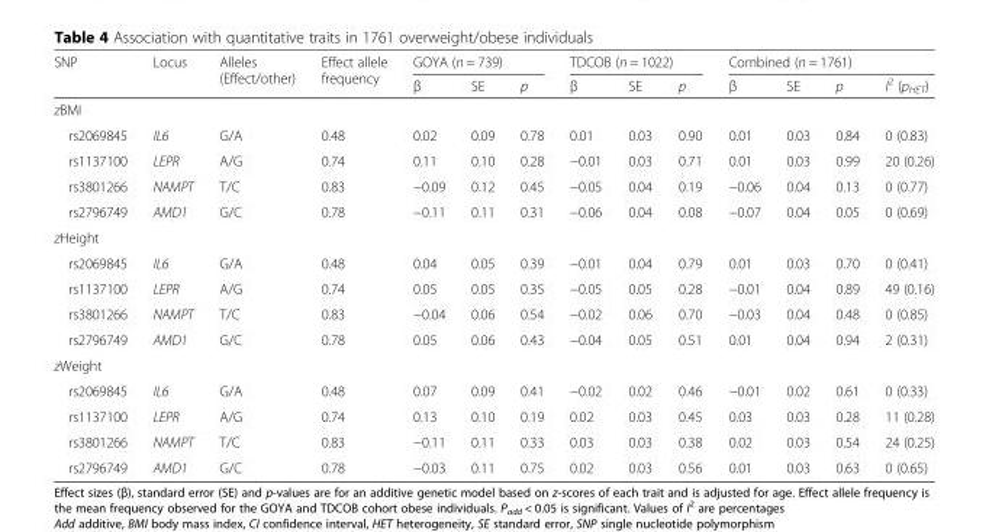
<table><thead><tr><td rowspan="2">SNP</td><td rowspan="2">Locus</td><td rowspan="2">Alleles (Effect/other)</td><td rowspan="2">Effect allele frequency</td><td colspan="3">GOYA (n = 739)</td><td colspan="3">TDCOB (n = 1022)</td><td colspan="4">Combined (n = 1761)</td></tr><tr><td>β</td><td>SE</td><td>p</td><td>β</td><td>SE</td><td>p</td><td>β</td><td>SE</td><td>p</td><td>I<sup>2</sup> (p<sub>HET</sub>)</td></tr></thead><tbody><tr><td colspan="14">zBMI</td></tr><tr><td>rs2069845</td><td>IL6</td><td>G/A</td><td>0.48</td><td>0.02</td><td>0.09</td><td>0.78</td><td>0.01</td><td>0.03</td><td>0.90</td><td>0.01</td><td>0.03</td><td>0.84</td><td>0 (0.83)</td></tr><tr><td>rs1137100</td><td>LEPR</td><td>A/G</td><td>0.74</td><td>0.11</td><td>0.10</td><td>0.28</td><td>−0.01</td><td>0.03</td><td>0.71</td><td>0.01</td><td>0.03</td><td>0.99</td><td>20 (0.26)</td></tr><tr><td>rs3801266</td><td>NAMPT</td><td>T/C</td><td>0.83</td><td>−0.09</td><td>0.12</td><td>0.45</td><td>−0.05</td><td>0.04</td><td>0.19</td><td>−0.06</td><td>0.04</td><td>0.13</td><td>0 (0.77)</td></tr><tr><td>rs2796749</td><td>AMD1</td><td>G/C</td><td>0.78</td><td>−0.11</td><td>0.11</td><td>0.31</td><td>−0.06</td><td>0.04</td><td>0.08</td><td>−0.07</td><td>0.04</td><td>0.05</td><td>0 (0.69)</td></tr><tr><td colspan="14">zHeight</td></tr><tr><td>rs2069845</td><td>IL6</td><td>G/A</td><td>0.48</td><td>0.04</td><td>0.05</td><td>0.39</td><td>−0.01</td><td>0.04</td><td>0.79</td><td>0.01</td><td>0.03</td><td>0.70</td><td>0 (0.41)</td></tr><tr><td>rs1137100</td><td>LEPR</td><td>A/G</td><td>0.74</td><td>0.05</td><td>0.05</td><td>0.35</td><td>−0.05</td><td>0.05</td><td>0.28</td><td>−0.01</td><td>0.04</td><td>0.89</td><td>49 (0.16)</td></tr><tr><td>rs3801266</td><td>NAMPT</td><td>T/C</td><td>0.83</td><td>−0.04</td><td>0.06</td><td>0.54</td><td>−0.02</td><td>0.06</td><td>0.70</td><td>−0.03</td><td>0.04</td><td>0.48</td><td>0 (0.85)</td></tr><tr><td>rs2796749</td><td>AMD1</td><td>G/C</td><td>0.78</td><td>0.05</td><td>0.06</td><td>0.43</td><td>−0.04</td><td>0.05</td><td>0.51</td><td>0.01</td><td>0.04</td><td>0.94</td><td>2 (0.31)</td></tr><tr><td colspan="14">zWeight</td></tr><tr><td>rs2069845</td><td>IL6</td><td>G/A</td><td>0.48</td><td>0.07</td><td>0.09</td><td>0.41</td><td>−0.02</td><td>0.02</td><td>0.46</td><td>−0.01</td><td>0.02</td><td>0.61</td><td>0 (0.33)</td></tr><tr><td>rs1137100</td><td>LEPR</td><td>A/G</td><td>0.74</td><td>0.13</td><td>0.10</td><td>0.19</td><td>0.02</td><td>0.03</td><td>0.45</td><td>0.03</td><td>0.03</td><td>0.28</td><td>11 (0.28)</td></tr><tr><td>rs3801266</td><td>NAMPT</td><td>T/C</td><td>0.83</td><td>−0.11</td><td>0.11</td><td>0.33</td><td>0.03</td><td>0.03</td><td>0.38</td><td>0.02</td><td>0.03</td><td>0.54</td><td>24 (0.25)</td></tr><tr><td>rs2796749</td><td>AMD1</td><td>G/C</td><td>0.78</td><td>−0.03</td><td>0.11</td><td>0.75</td><td>0.02</td><td>0.03</td><td>0.56</td><td>0.01</td><td>0.03</td><td>0.63</td><td>0 (0.65)</td></tr></tbody></table>